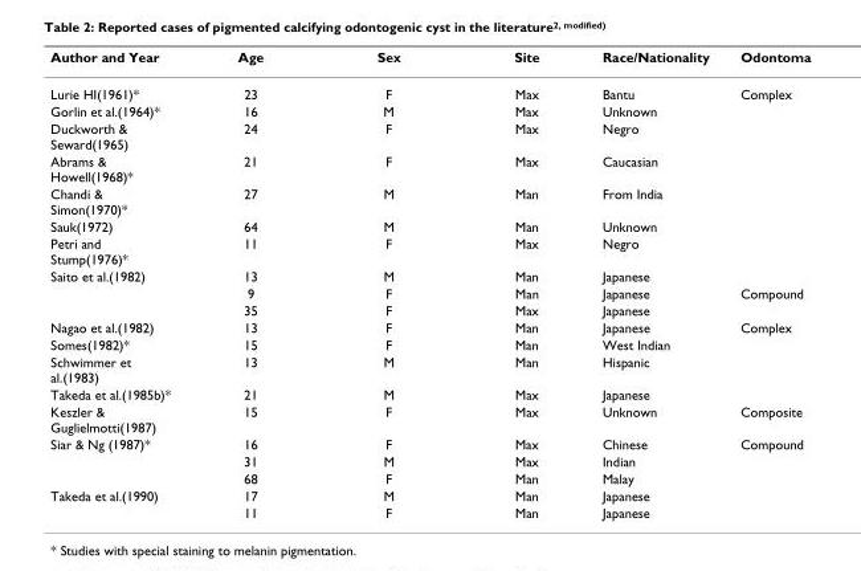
<table><thead><tr><td>Author and Year</td><td>Age</td><td>Sex</td><td>Site</td><td>Race/Nationality</td><td>Odontoma</td></tr></thead><tbody><tr><td>Lurie HI(1961)*</td><td>23</td><td>F</td><td>Max</td><td>Bantu</td><td>Complex</td></tr><tr><td>Gorlin et al.(1964)*</td><td>16</td><td>M</td><td>Max</td><td>Unknown</td><td></td></tr><tr><td>Duckworth &amp; Seward(1965)</td><td>24</td><td>F</td><td>Max</td><td>Negro</td><td></td></tr><tr><td>Abrams &amp; Howell(1968)*</td><td>21</td><td>F</td><td>Max</td><td>Caucasian</td><td></td></tr><tr><td>Chandi &amp; Simon(1970)*</td><td>27</td><td>M</td><td>Man</td><td>From India</td><td></td></tr><tr><td>Sauk(1972)</td><td>64</td><td>M</td><td>Man</td><td>Unknown</td><td></td></tr><tr><td>Petri and Stump(1976)*</td><td>11</td><td>F</td><td>Max</td><td>Negro</td><td></td></tr><tr><td rowspan="3">Saito et al.(1982)</td><td>13</td><td>M</td><td>Man</td><td>Japanese</td><td></td></tr><tr><td>9</td><td>F</td><td>Man</td><td>Japanese</td><td>Compound</td></tr><tr><td>35</td><td>F</td><td>Max</td><td>Japanese</td><td></td></tr><tr><td>Nagao et al.(1982)</td><td>13</td><td>F</td><td>Man</td><td>Japanese</td><td>Complex</td></tr><tr><td>Somes(1982)*</td><td>15</td><td>F</td><td>Man</td><td>West Indian</td><td></td></tr><tr><td>Schwimmer et al.(1983)</td><td>13</td><td>M</td><td>Man</td><td>Hispanic</td><td></td></tr><tr><td>Takeda et al.(1985b)*</td><td>21</td><td>M</td><td>Max</td><td>Japanese</td><td></td></tr><tr><td>Keszler &amp; Guglielmotti(1987)</td><td>15</td><td>F</td><td>Max</td><td>Unknown</td><td>Composite</td></tr><tr><td rowspan="3">Siar &amp; Ng (1987)*</td><td>16</td><td>F</td><td>Max</td><td>Chinese</td><td>Compound</td></tr><tr><td>31</td><td>M</td><td>Max</td><td>Indian</td><td></td></tr><tr><td>68</td><td>F</td><td>Man</td><td>Malay</td><td></td></tr><tr><td rowspan="2">Takeda et al.(1990)</td><td>17</td><td>M</td><td>Man</td><td>Japanese</td><td></td></tr><tr><td>11</td><td>F</td><td>Man</td><td>Japanese</td><td></td></tr></tbody></table>